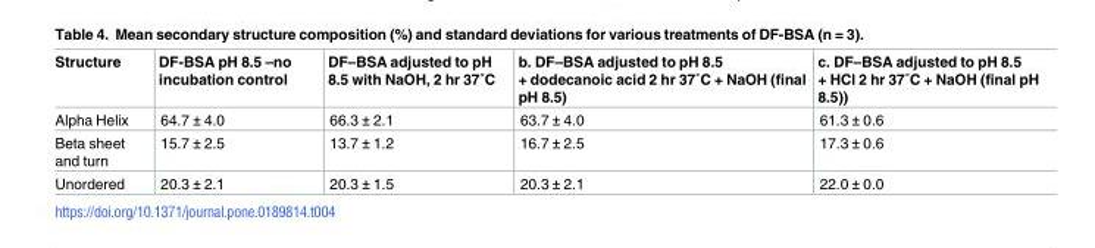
<table><thead><tr><td>Structure</td><td>DF-BSA pH 8.5 –no incubation control</td><td>DF–BSA adjusted to pH 8.5 with NaOH, 2 hr 37˚C</td><td>b. DF–BSA adjusted to pH 8.5 + dodecanoic acid 2 hr 37˚C + NaOH (final pH 8.5)</td><td>c. DF–BSA adjusted to pH 8.5 + HCl 2 hr 37˚C + NaOH (final pH 8.5))</td></tr></thead><tbody><tr><td>Alpha Helix</td><td>64.7 ± 4.0</td><td>66.3 ± 2.1</td><td>63.7 ± 4.0</td><td>61.3 ± 0.6</td></tr><tr><td>Beta sheet and turn</td><td>15.7 ± 2.5</td><td>13.7 ± 1.2</td><td>16.7 ± 2.5</td><td>17.3 ± 0.6</td></tr><tr><td>Unordered</td><td>20.3 ± 2.1</td><td>20.3 ± 1.5</td><td>20.3 ± 2.1</td><td>22.0 ± 0.0</td></tr></tbody></table>